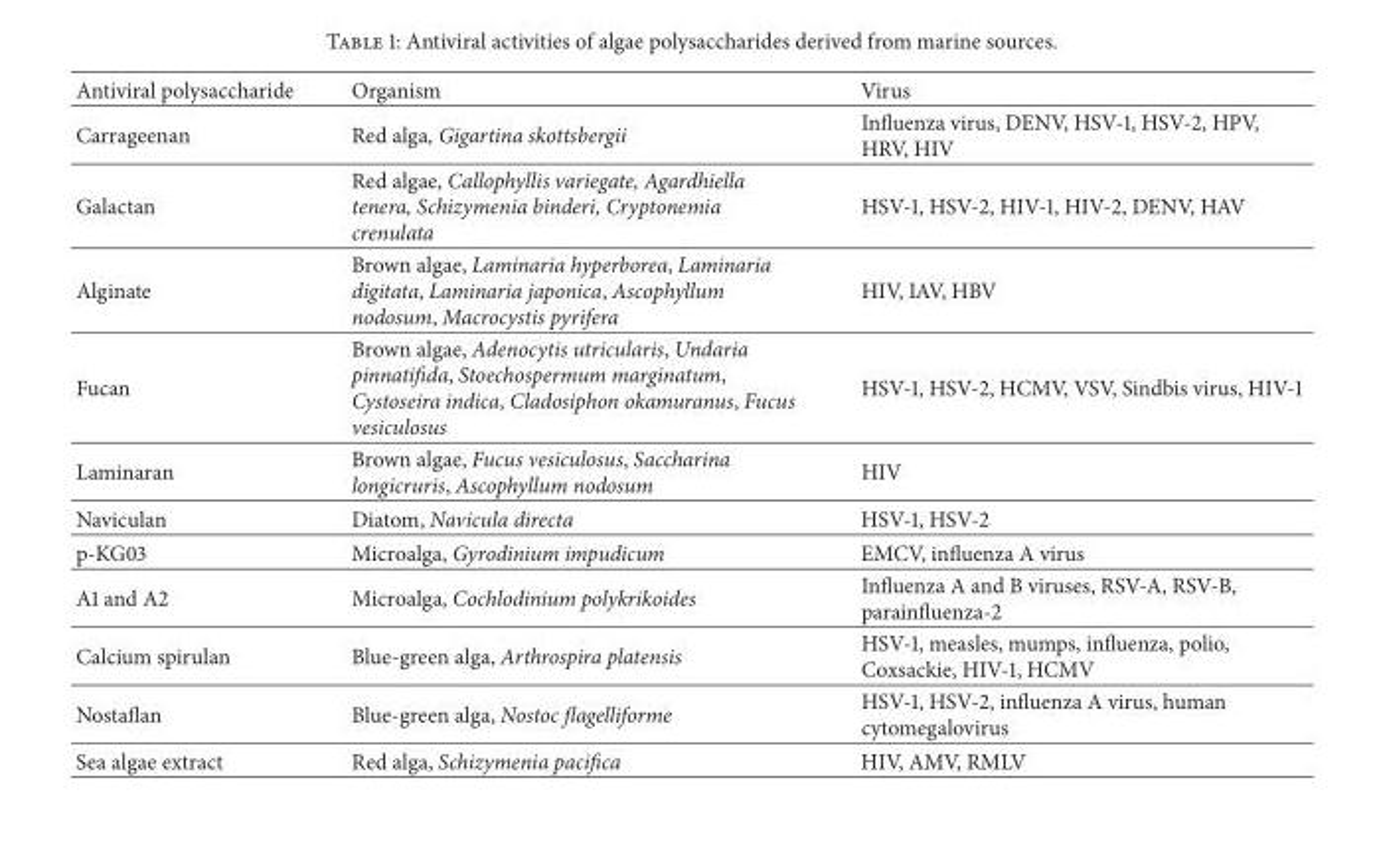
<table><thead><tr><td>Antiviral polysaccharide</td><td>Organism</td><td>Virus</td></tr></thead><tbody><tr><td>Carrageenan</td><td>Red alga, Gigartina skottsbergii</td><td>Influenza virus, DENV, HSV-1, HSV-2, HPV, HRV, HIV</td></tr><tr><td>Galactan</td><td>Red algae, Callophyllis variegate, Agardhiella tenera, Schizymenia binderi, Cryptonemia crenulata</td><td>HSV-1, HSV-2, HIV-1, HIV-2, DENV, HAV</td></tr><tr><td>Alginate</td><td>Brown algae, Laminaria hyperborea, Laminaria digitata, Laminaria japonica, Ascophyllum nodosum, Macrocystis pyrifera</td><td>HIV, IAV, HBV</td></tr><tr><td>Fucan</td><td>Brown algae, Adenocytis utricularis, Undaria pinnatifida, Stoechospermum marginatum, Cystoseira indica, Cladosiphon okamuranus, Fucus vesiculosus</td><td>HSV-1, HSV-2, HCMV, VSV, Sindbis virus, HIV-1</td></tr><tr><td>Laminaran</td><td>Brown algae, Fucus vesiculosus, Saccharina longicruris, Ascophyllum nodosum</td><td>HIV</td></tr><tr><td>Naviculan</td><td>Diatom, Navicula directa</td><td>HSV-1, HSV-2</td></tr><tr><td>p-KG03</td><td>Microalga, Gyrodinium impudicum</td><td>EMCV, influenza A virus</td></tr><tr><td>A1 and A2</td><td>Microalga, Cochlodinium polykrikoides</td><td>Influenza A and B viruses, RSV-A, RSV-B, parainfluenza-2</td></tr><tr><td>Calcium spirulan</td><td>Blue-green alga, Arthrospira platensis</td><td>HSV-1, measles, mumps, influenza, polio, Coxsackie, HIV-1, HCMV</td></tr><tr><td>Nostaflan</td><td>Blue-green alga, Nostoc flagelliforme</td><td>HSV-1, HSV-2, influenza A virus, human cytomegalovirus</td></tr><tr><td>Sea algae extract</td><td>Red alga, Schizymenia pacifica</td><td>HIV, AMV, RMLV</td></tr></tbody></table>